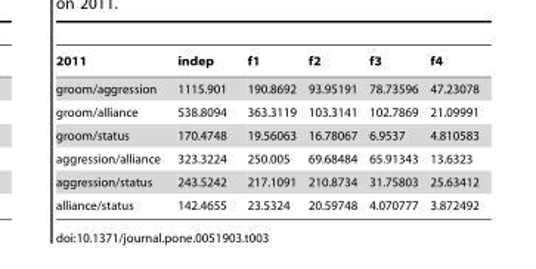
<table><thead><tr><td>2011</td><td>indep</td><td>f1</td><td>f2</td><td>f3</td><td>f4</td></tr></thead><tbody><tr><td>groom/aggression</td><td>1115.901</td><td>190.8692</td><td>93.95191</td><td>78.73596</td><td>47.23078</td></tr><tr><td>groom/alliance</td><td>538.8094</td><td>363.3119</td><td>103.3141</td><td>102.7869</td><td>21.09991</td></tr><tr><td>groom/status</td><td>170.4748</td><td>19.56063</td><td>16.78067</td><td>6.9537</td><td>4.810583</td></tr><tr><td>aggression/alliance</td><td>323.3224</td><td>250.005</td><td>69.68484</td><td>65.91343</td><td>13.6323</td></tr><tr><td>aggression/status</td><td>243.5242</td><td>217.1091</td><td>210.8734</td><td>31.75803</td><td>25.63412</td></tr><tr><td>alliance/status</td><td>142.4655</td><td>23.5324</td><td>20.59748</td><td>4.070777</td><td>3.872492</td></tr></tbody></table>